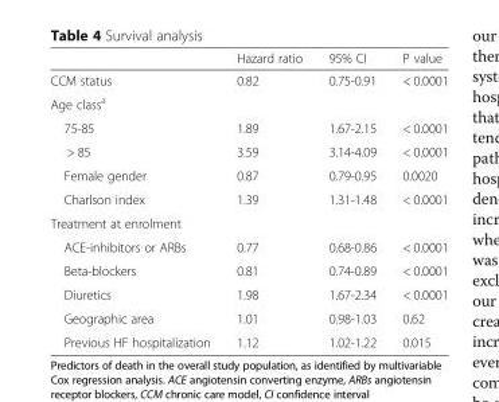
<table><thead><tr><td></td><td>Hazard ratio</td><td>95% CI</td><td>P value</td></tr></thead><tbody><tr><td>CCM status</td><td>0.82</td><td>0.75-0.91</td><td>&lt; 0.0001</td></tr><tr><td colspan="4">Age class<sup>a</sup></td></tr><tr><td>75-85</td><td>1.89</td><td>1.67-2.15</td><td>&lt; 0.0001</td></tr><tr><td>&gt; 85</td><td>3.59</td><td>3.14-4.09</td><td>&lt; 0.0001</td></tr><tr><td>Female gender</td><td>0.87</td><td>0.79-0.95</td><td>0.0020</td></tr><tr><td>Charlson index</td><td>1.39</td><td>1.31-1.48</td><td>&lt; 0.0001</td></tr><tr><td colspan="4">Treatment at enrolment</td></tr><tr><td>ACE-inhibitors or ARBs</td><td>0.77</td><td>0.68-0.86</td><td>&lt; 0.0001</td></tr><tr><td>Beta-blockers</td><td>0.81</td><td>0.74-0.89</td><td>&lt; 0.0001</td></tr><tr><td>Diuretics</td><td>1.98</td><td>1.67-2.34</td><td>&lt; 0.0001</td></tr><tr><td>Geographic area</td><td>1.01</td><td>0.98-1.03</td><td>0.62</td></tr><tr><td>Previous HF hospitalization</td><td>1.12</td><td>1.02-1.22</td><td>0.015</td></tr></tbody></table>